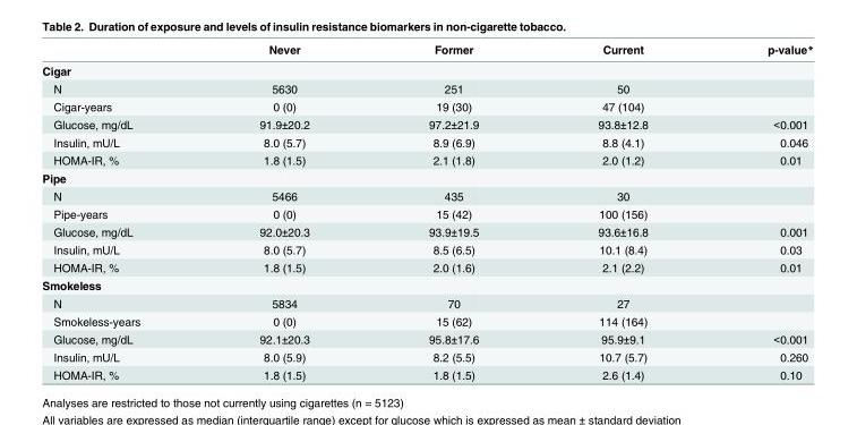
<table><thead><tr><td></td><td>Never</td><td>Former</td><td>Current</td><td>p-value*</td></tr></thead><tbody><tr><td colspan="5">Cigar</td></tr><tr><td>N</td><td>5630</td><td>251</td><td>50</td><td></td></tr><tr><td>Cigar-years</td><td>0 (0)</td><td>19 (30)</td><td>47 (104)</td><td></td></tr><tr><td>Glucose, mg/dL</td><td>91.9±20.2</td><td>97.2±21.9</td><td>93.8±12.8</td><td>&lt;0.001</td></tr><tr><td>Insulin, mU/L</td><td>8.0 (5.7)</td><td>8.9 (6.9)</td><td>8.8 (4.1)</td><td>0.046</td></tr><tr><td>HOMA-IR, %</td><td>1.8 (1.5)</td><td>2.1 (1.8)</td><td>2.0 (1.2)</td><td>0.01</td></tr><tr><td colspan="5">Pipe</td></tr><tr><td>N</td><td>5466</td><td>435</td><td>30</td><td></td></tr><tr><td>Pipe-years</td><td>0 (0)</td><td>15 (42)</td><td>100 (156)</td><td></td></tr><tr><td>Glucose, mg/dL</td><td>92.0±20.3</td><td>93.9±19.5</td><td>93.6±16.8</td><td>0.001</td></tr><tr><td>Insulin, mU/L</td><td>8.0 (5.7)</td><td>8.5 (6.5)</td><td>10.1 (8.4)</td><td>0.03</td></tr><tr><td>HOMA-IR, %</td><td>1.8 (1.5)</td><td>2.0 (1.6)</td><td>2.1 (2.2)</td><td>0.01</td></tr><tr><td colspan="5">Smokeless</td></tr><tr><td>N</td><td>5834</td><td>70</td><td>27</td><td></td></tr><tr><td>Smokeless-years</td><td>0 (0)</td><td>15 (62)</td><td>114 (164)</td><td></td></tr><tr><td>Glucose, mg/dL</td><td>92.1±20.3</td><td>95.8±17.6</td><td>95.9±9.1</td><td>&lt;0.001</td></tr><tr><td>Insulin, mU/L</td><td>8.0 (5.9)</td><td>8.2 (5.5)</td><td>10.7 (5.7)</td><td>0.260</td></tr><tr><td>HOMA-IR, %</td><td>1.8 (1.5)</td><td>1.8 (1.5)</td><td>2.6 (1.4)</td><td>0.10</td></tr></tbody></table>